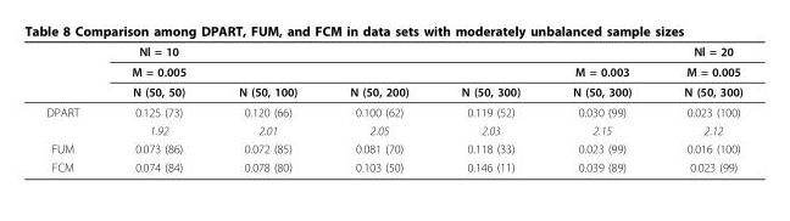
<table><thead><tr><td rowspan="3"></td><td rowspan="3">Nl = 10 M = 0.005 N (50, 50)</td><td rowspan="3">N (50, 100)</td><td rowspan="3">N (50, 200)</td><td rowspan="3">N (50, 300)</td><td rowspan="3">M = 0.003 N (50, 300)</td><td rowspan="3">Nl = 20 M = 0.005 N (50, 300)</td></tr><tr></tr><tr></tr></thead><tbody><tr><td rowspan="2">DPART</td><td>0.125 (73)</td><td>0.120 (66)</td><td>0.100 (62)</td><td>0.119 (52)</td><td>0.030 (99)</td><td>0.023 (100)</td></tr><tr><td>1.92</td><td>2.01</td><td>2.05</td><td>2.03</td><td>2.15</td><td>2.12</td></tr><tr><td>FUM</td><td>0.073 (86)</td><td>0.072 (85)</td><td>0.081 (70)</td><td>0.118 (33)</td><td>0.023 (99)</td><td>0.016 (100)</td></tr><tr><td>FCM</td><td>0.074 (84)</td><td>0.078 (80)</td><td>0.103 (50)</td><td>0.146 (11)</td><td>0.039 (89)</td><td>0.023 (99)</td></tr></tbody></table>